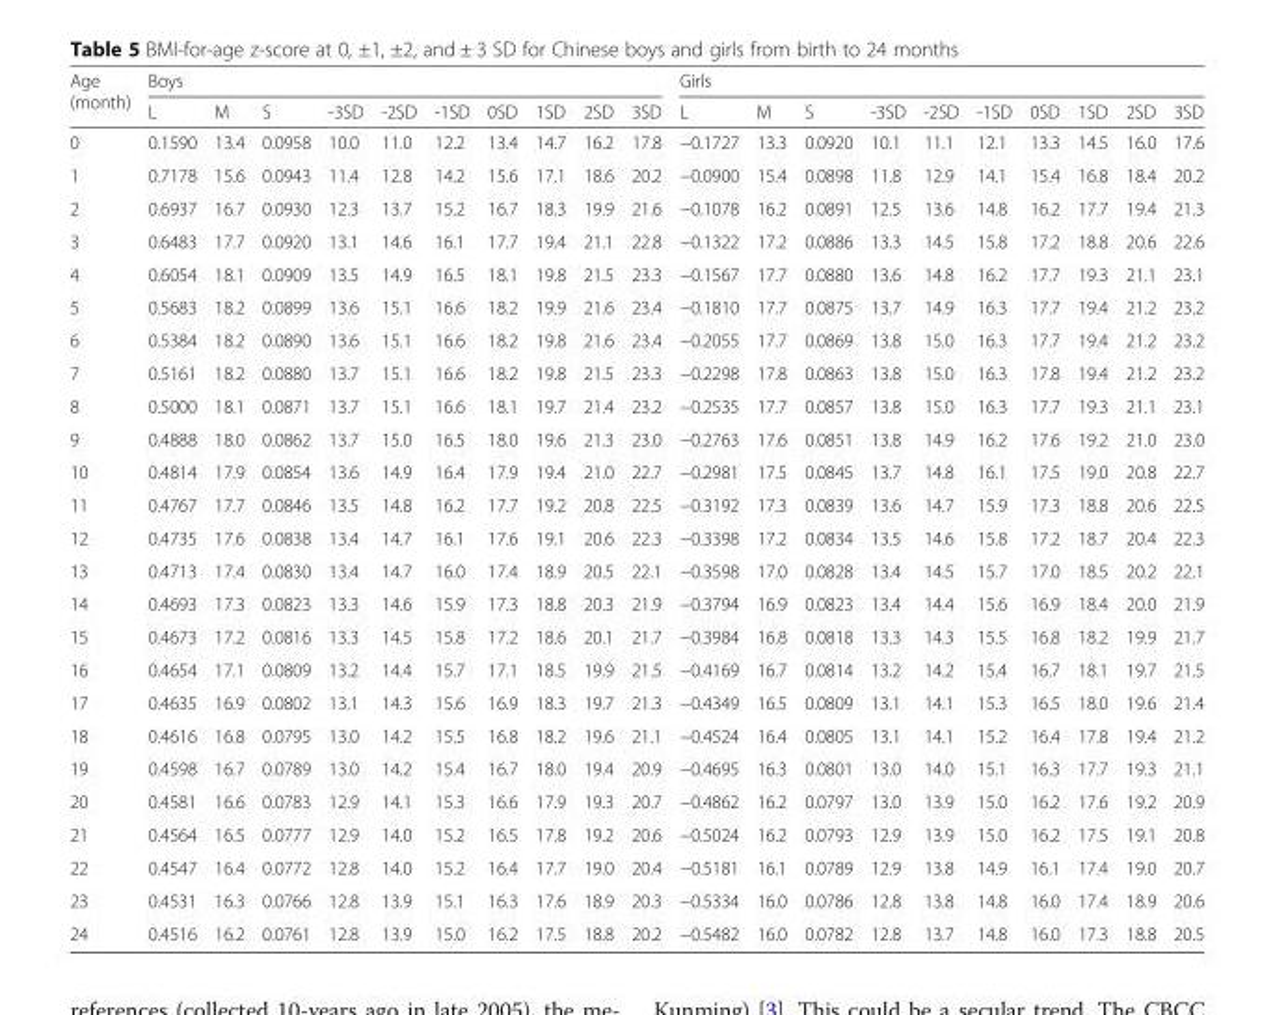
<table><thead><tr><td rowspan="2">Age (month)</td><td colspan="10">Boys</td><td colspan="10">Girls</td></tr><tr><td>L</td><td>M</td><td>S</td><td>-3SD</td><td>-2SD</td><td>-1SD</td><td>0SD</td><td>1SD</td><td>2SD</td><td>3SD</td><td>L</td><td>M</td><td>S</td><td>-3SD</td><td>-2SD</td><td>-1SD</td><td>0SD</td><td>1SD</td><td>2SD</td><td>3SD</td></tr></thead><tbody><tr><td>0</td><td>0.1590</td><td>13.4</td><td>0.0958</td><td>10.0</td><td>11.0</td><td>12.2</td><td>13.4</td><td>14.7</td><td>16.2</td><td>17.8</td><td>−0.1727</td><td>13.3</td><td>0.0920</td><td>10.1</td><td>11.1</td><td>12.1</td><td>13.3</td><td>14.5</td><td>16.0</td><td>17.6</td></tr><tr><td>1</td><td>0.7178</td><td>15.6</td><td>0.0943</td><td>11.4</td><td>12.8</td><td>14.2</td><td>15.6</td><td>17.1</td><td>18.6</td><td>20.2</td><td>−0.0900</td><td>15.4</td><td>0.0898</td><td>11.8</td><td>12.9</td><td>14.1</td><td>15.4</td><td>16.8</td><td>18.4</td><td>20.2</td></tr><tr><td>2</td><td>0.6937</td><td>16.7</td><td>0.0930</td><td>12.3</td><td>13.7</td><td>15.2</td><td>16.7</td><td>18.3</td><td>19.9</td><td>21.6</td><td>−0.1078</td><td>16.2</td><td>0.0891</td><td>12.5</td><td>13.6</td><td>14.8</td><td>16.2</td><td>17.7</td><td>19.4</td><td>21.3</td></tr><tr><td>3</td><td>0.6483</td><td>17.7</td><td>0.0920</td><td>13.1</td><td>14.6</td><td>16.1</td><td>17.7</td><td>19.4</td><td>21.1</td><td>22.8</td><td>−0.1322</td><td>17.2</td><td>0.0886</td><td>13.3</td><td>14.5</td><td>15.8</td><td>17.2</td><td>18.8</td><td>20.6</td><td>22.6</td></tr><tr><td>4</td><td>0.6054</td><td>18.1</td><td>0.0909</td><td>13.5</td><td>14.9</td><td>16.5</td><td>18.1</td><td>19.8</td><td>21.5</td><td>23.3</td><td>−0.1567</td><td>17.7</td><td>0.0880</td><td>13.6</td><td>14.8</td><td>16.2</td><td>17.7</td><td>19.3</td><td>21.1</td><td>23.1</td></tr><tr><td>5</td><td>0.5683</td><td>18.2</td><td>0.0899</td><td>13.6</td><td>15.1</td><td>16.6</td><td>18.2</td><td>19.9</td><td>21.6</td><td>23.4</td><td>−0.1810</td><td>17.7</td><td>0.0875</td><td>13.7</td><td>14.9</td><td>16.3</td><td>17.7</td><td>19.4</td><td>21.2</td><td>23.2</td></tr><tr><td>6</td><td>0.5384</td><td>18.2</td><td>0.0890</td><td>13.6</td><td>15.1</td><td>16.6</td><td>18.2</td><td>19.8</td><td>21.6</td><td>23.4</td><td>−0.2055</td><td>17.7</td><td>0.0869</td><td>13.8</td><td>15.0</td><td>16.3</td><td>17.7</td><td>19.4</td><td>21.2</td><td>23.2</td></tr><tr><td>7</td><td>0.5161</td><td>18.2</td><td>0.0880</td><td>13.7</td><td>15.1</td><td>16.6</td><td>18.2</td><td>19.8</td><td>21.5</td><td>23.3</td><td>−0.2298</td><td>17.8</td><td>0.0863</td><td>13.8</td><td>15.0</td><td>16.3</td><td>17.8</td><td>19.4</td><td>21.2</td><td>23.2</td></tr><tr><td>8</td><td>0.5000</td><td>18.1</td><td>0.0871</td><td>13.7</td><td>15.1</td><td>16.6</td><td>18.1</td><td>19.7</td><td>21.4</td><td>23.2</td><td>−0.2535</td><td>17.7</td><td>0.0857</td><td>13.8</td><td>15.0</td><td>16.3</td><td>17.7</td><td>19.3</td><td>21.1</td><td>23.1</td></tr><tr><td>9</td><td>0.4888</td><td>18.0</td><td>0.0862</td><td>13.7</td><td>15.0</td><td>16.5</td><td>18.0</td><td>19.6</td><td>21.3</td><td>23.0</td><td>−0.2763</td><td>17.6</td><td>0.0851</td><td>13.8</td><td>14.9</td><td>16.2</td><td>17.6</td><td>19.2</td><td>21.0</td><td>23.0</td></tr><tr><td>10</td><td>0.4814</td><td>17.9</td><td>0.0854</td><td>13.6</td><td>14.9</td><td>16.4</td><td>17.9</td><td>19.4</td><td>21.0</td><td>22.7</td><td>−0.2981</td><td>17.5</td><td>0.0845</td><td>13.7</td><td>14.8</td><td>16.1</td><td>17.5</td><td>19.0</td><td>20.8</td><td>22.7</td></tr><tr><td>11</td><td>0.4767</td><td>17.7</td><td>0.0846</td><td>13.5</td><td>14.8</td><td>16.2</td><td>17.7</td><td>19.2</td><td>20.8</td><td>22.5</td><td>−0.3192</td><td>17.3</td><td>0.0839</td><td>13.6</td><td>14.7</td><td>15.9</td><td>17.3</td><td>18.8</td><td>20.6</td><td>22.5</td></tr><tr><td>12</td><td>0.4735</td><td>17.6</td><td>0.0838</td><td>13.4</td><td>14.7</td><td>16.1</td><td>17.6</td><td>19.1</td><td>20.6</td><td>22.3</td><td>−0.3398</td><td>17.2</td><td>0.0834</td><td>13.5</td><td>14.6</td><td>15.8</td><td>17.2</td><td>18.7</td><td>20.4</td><td>22.3</td></tr><tr><td>13</td><td>0.4713</td><td>17.4</td><td>0.0830</td><td>13.4</td><td>14.7</td><td>16.0</td><td>17.4</td><td>18.9</td><td>20.5</td><td>22.1</td><td>−0.3598</td><td>17.0</td><td>0.0828</td><td>13.4</td><td>14.5</td><td>15.7</td><td>17.0</td><td>18.5</td><td>20.2</td><td>22.1</td></tr><tr><td>14</td><td>0.4693</td><td>17.3</td><td>0.0823</td><td>13.3</td><td>14.6</td><td>15.9</td><td>17.3</td><td>18.8</td><td>20.3</td><td>21.9</td><td>−0.3794</td><td>16.9</td><td>0.0823</td><td>13.4</td><td>14.4</td><td>15.6</td><td>16.9</td><td>18.4</td><td>20.0</td><td>21.9</td></tr><tr><td>15</td><td>0.4673</td><td>17.2</td><td>0.0816</td><td>13.3</td><td>14.5</td><td>15.8</td><td>17.2</td><td>18.6</td><td>20.1</td><td>21.7</td><td>−0.3984</td><td>16.8</td><td>0.0818</td><td>13.3</td><td>14.3</td><td>15.5</td><td>16.8</td><td>18.2</td><td>19.9</td><td>21.7</td></tr><tr><td>16</td><td>0.4654</td><td>17.1</td><td>0.0809</td><td>13.2</td><td>14.4</td><td>15.7</td><td>17.1</td><td>18.5</td><td>19.9</td><td>21.5</td><td>−0.4169</td><td>16.7</td><td>0.0814</td><td>13.2</td><td>14.2</td><td>15.4</td><td>16.7</td><td>18.1</td><td>19.7</td><td>21.5</td></tr><tr><td>17</td><td>0.4635</td><td>16.9</td><td>0.0802</td><td>13.1</td><td>14.3</td><td>15.6</td><td>16.9</td><td>18.3</td><td>19.7</td><td>21.3</td><td>−0.4349</td><td>16.5</td><td>0.0809</td><td>13.1</td><td>14.1</td><td>15.3</td><td>16.5</td><td>18.0</td><td>19.6</td><td>21.4</td></tr><tr><td>18</td><td>0.4616</td><td>16.8</td><td>0.0795</td><td>13.0</td><td>14.2</td><td>15.5</td><td>16.8</td><td>18.2</td><td>19.6</td><td>21.1</td><td>−0.4524</td><td>16.4</td><td>0.0805</td><td>13.1</td><td>14.1</td><td>15.2</td><td>16.4</td><td>17.8</td><td>19.4</td><td>21.2</td></tr><tr><td>19</td><td>0.4598</td><td>16.7</td><td>0.0789</td><td>13.0</td><td>14.2</td><td>15.4</td><td>16.7</td><td>18.0</td><td>19.4</td><td>20.9</td><td>−0.4695</td><td>16.3</td><td>0.0801</td><td>13.0</td><td>14.0</td><td>15.1</td><td>16.3</td><td>17.7</td><td>19.3</td><td>21.1</td></tr><tr><td>20</td><td>0.4581</td><td>16.6</td><td>0.0783</td><td>12.9</td><td>14.1</td><td>15.3</td><td>16.6</td><td>17.9</td><td>19.3</td><td>20.7</td><td>−0.4862</td><td>16.2</td><td>0.0797</td><td>13.0</td><td>13.9</td><td>15.0</td><td>16.2</td><td>17.6</td><td>19.2</td><td>20.9</td></tr><tr><td>21</td><td>0.4564</td><td>16.5</td><td>0.0777</td><td>12.9</td><td>14.0</td><td>15.2</td><td>16.5</td><td>17.8</td><td>19.2</td><td>20.6</td><td>−0.5024</td><td>16.2</td><td>0.0793</td><td>12.9</td><td>13.9</td><td>15.0</td><td>16.2</td><td>17.5</td><td>19.1</td><td>20.8</td></tr><tr><td>22</td><td>0.4547</td><td>16.4</td><td>0.0772</td><td>12.8</td><td>14.0</td><td>15.2</td><td>16.4</td><td>17.7</td><td>19.0</td><td>20.4</td><td>−0.5181</td><td>16.1</td><td>0.0789</td><td>12.9</td><td>13.8</td><td>14.9</td><td>16.1</td><td>17.4</td><td>19.0</td><td>20.7</td></tr><tr><td>23</td><td>0.4531</td><td>16.3</td><td>0.0766</td><td>12.8</td><td>13.9</td><td>15.1</td><td>16.3</td><td>17.6</td><td>18.9</td><td>20.3</td><td>−0.5334</td><td>16.0</td><td>0.0786</td><td>12.8</td><td>13.8</td><td>14.8</td><td>16.0</td><td>17.4</td><td>18.9</td><td>20.6</td></tr><tr><td>24</td><td>0.4516</td><td>16.2</td><td>0.0761</td><td>12.8</td><td>13.9</td><td>15.0</td><td>16.2</td><td>17.5</td><td>18.8</td><td>20.2</td><td>−0.5482</td><td>16.0</td><td>0.0782</td><td>12.8</td><td>13.7</td><td>14.8</td><td>16.0</td><td>17.3</td><td>18.8</td><td>20.5</td></tr></tbody></table>